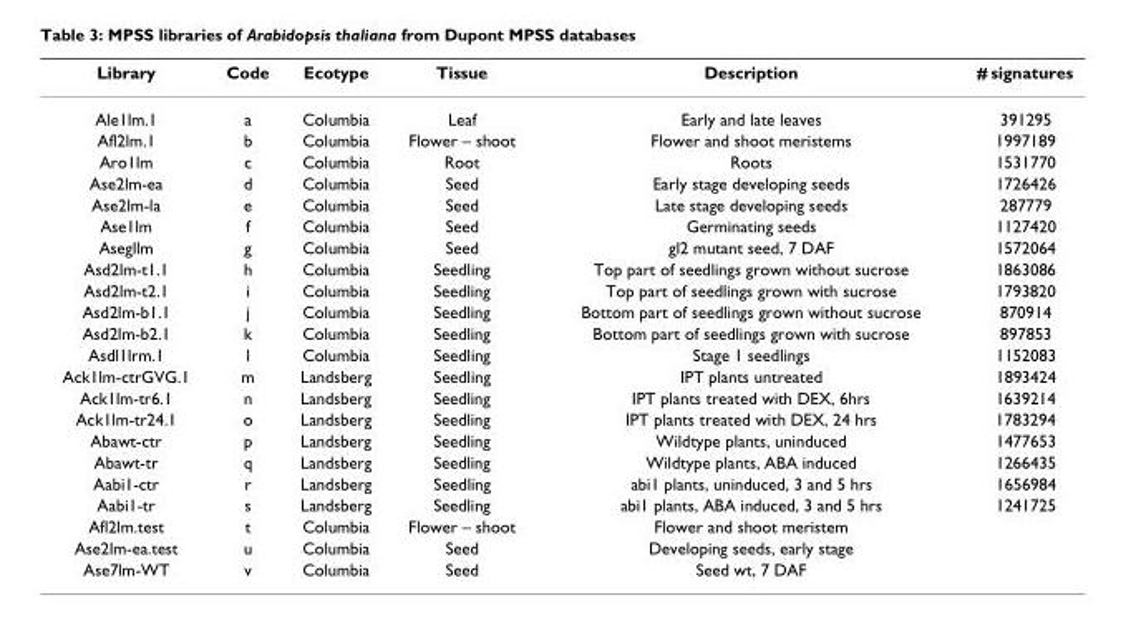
<table><thead><tr><td>Library</td><td>Code</td><td>Ecotype</td><td>Tissue</td><td>Description</td><td># signatures</td></tr></thead><tbody><tr><td>Ale1lm.1</td><td>a</td><td>Columbia</td><td>Leaf</td><td>Early and late leaves</td><td>391295</td></tr><tr><td>Afl2lm.1</td><td>b</td><td>Columbia</td><td>Flower – shoot</td><td>Flower and shoot meristems</td><td>1997189</td></tr><tr><td>Aro1lm</td><td>c</td><td>Columbia</td><td>Root</td><td>Roots</td><td>1531770</td></tr><tr><td>Ase2lm-ea</td><td>d</td><td>Columbia</td><td>Seed</td><td>Early stage developing seeds</td><td>1726426</td></tr><tr><td>Ase2lm-la</td><td>e</td><td>Columbia</td><td>Seed</td><td>Late stage developing seeds</td><td>287779</td></tr><tr><td>Ase1lm</td><td>f</td><td>Columbia</td><td>Seed</td><td>Germinating seeds</td><td>1127420</td></tr><tr><td>Asegllm</td><td>g</td><td>Columbia</td><td>Seed</td><td>gl2 mutant seed, 7 DAF</td><td>1572064</td></tr><tr><td>Asd2lm-t1.1</td><td>h</td><td>Columbia</td><td>Seedling</td><td>Top part of seedlings grown without sucrose</td><td>1863086</td></tr><tr><td>Asd2lm-t2.1</td><td>i</td><td>Columbia</td><td>Seedling</td><td>Top part of seedlings grown with sucrose</td><td>1793820</td></tr><tr><td>Asd2lm-b1.1</td><td>j</td><td>Columbia</td><td>Seedling</td><td>Bottom part of seedlings grown without sucrose</td><td>870914</td></tr><tr><td>Asd2lm-b2.1</td><td>k</td><td>Columbia</td><td>Seedling</td><td>Bottom part of seedlings grown with sucrose</td><td>897853</td></tr><tr><td>Asdl1lrm.1</td><td>l</td><td>Columbia</td><td>Seedling</td><td>Stage 1 seedlings</td><td>1152083</td></tr><tr><td>Ack1lm-ctrGVG.1</td><td>m</td><td>Landsberg</td><td>Seedling</td><td>IPT plants untreated</td><td>1893424</td></tr><tr><td>Ack1lm-tr6.1</td><td>n</td><td>Landsberg</td><td>Seedling</td><td>IPT plants treated with DEX, 6hrs</td><td>1639214</td></tr><tr><td>Ack1lm-tr24.1</td><td>o</td><td>Landsberg</td><td>Seedling</td><td>IPT plants treated with DEX, 24 hrs</td><td>1783294</td></tr><tr><td>Abawt-ctr</td><td>p</td><td>Landsberg</td><td>Seedling</td><td>Wildtype plants, uninduced</td><td>1477653</td></tr><tr><td>Abawt-tr</td><td>q</td><td>Landsberg</td><td>Seedling</td><td>Wildtype plants, ABA induced</td><td>1266435</td></tr><tr><td>Aabi1-ctr</td><td>r</td><td>Landsberg</td><td>Seedling</td><td>abi1 plants, uninduced, 3 and 5 hrs</td><td>1656984</td></tr><tr><td>Aabi1-tr</td><td>s</td><td>Landsberg</td><td>Seedling</td><td>abi1 plants, ABA induced, 3 and 5 hrs</td><td>1241725</td></tr><tr><td>Afl2lm.test</td><td>t</td><td>Columbia</td><td>Flower – shoot</td><td>Flower and shoot meristem</td><td></td></tr><tr><td>Ase2lm-ea.test</td><td>u</td><td>Columbia</td><td>Seed</td><td>Developing seeds, early stage</td><td></td></tr><tr><td>Ase7lm-WT</td><td>v</td><td>Columbia</td><td>Seed</td><td>Seed wt, 7 DAF</td><td></td></tr></tbody></table>